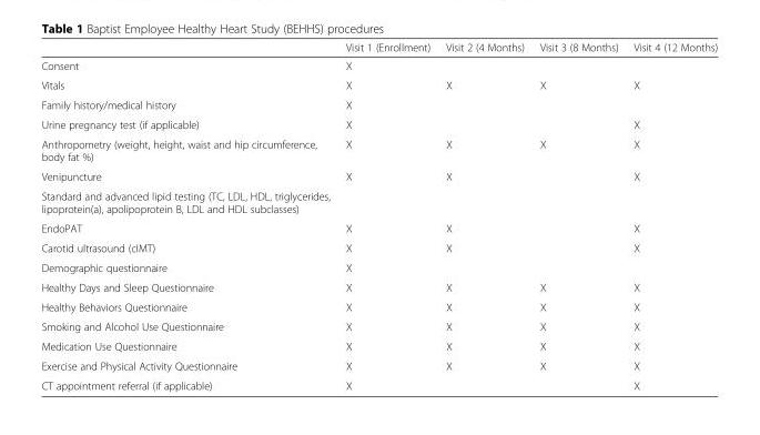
<table><thead><tr><td></td><td>Visit 1 (Enrollment)</td><td>Visit 2 (4 Months)</td><td>Visit 3 (8 Months)</td><td>Visit 4 (12 Months)</td></tr></thead><tbody><tr><td>Consent</td><td>X</td><td></td><td></td><td></td></tr><tr><td>Vitals</td><td>X</td><td>X</td><td>X</td><td>X</td></tr><tr><td>Family history/medical history</td><td>X</td><td></td><td></td><td></td></tr><tr><td>Urine pregnancy test (if applicable)</td><td>X</td><td></td><td></td><td>X</td></tr><tr><td>Anthropometry (weight, height, waist and hip circumference, body fat %)</td><td>X</td><td>X</td><td>X</td><td>X</td></tr><tr><td>Venipuncture</td><td rowspan="2">X</td><td rowspan="2">X</td><td rowspan="2"></td><td rowspan="2">X</td></tr><tr><td>Standard and advanced lipid testing (TC, LDL, HDL, triglycerides, lipoprotein(a), apolipoprotein B, LDL and HDL subclasses)</td></tr><tr><td>EndoPAT</td><td>X</td><td>X</td><td></td><td>X</td></tr><tr><td>Carotid ultrasound (cIMT)</td><td>X</td><td>X</td><td></td><td>X</td></tr><tr><td>Demographic questionnaire</td><td>X</td><td></td><td></td><td></td></tr><tr><td>Healthy Days and Sleep Questionnaire</td><td>X</td><td>X</td><td>X</td><td>X</td></tr><tr><td>Healthy Behaviors Questionnaire</td><td>X</td><td>X</td><td>X</td><td>X</td></tr><tr><td>Smoking and Alcohol Use Questionnaire</td><td>X</td><td>X</td><td>X</td><td>X</td></tr><tr><td>Medication Use Questionnaire</td><td>X</td><td>X</td><td>X</td><td>X</td></tr><tr><td>Exercise and Physical Activity Questionnaire</td><td>X</td><td>X</td><td>X</td><td>X</td></tr><tr><td>CT appointment referral (if applicable)</td><td>X</td><td></td><td></td><td>X</td></tr></tbody></table>